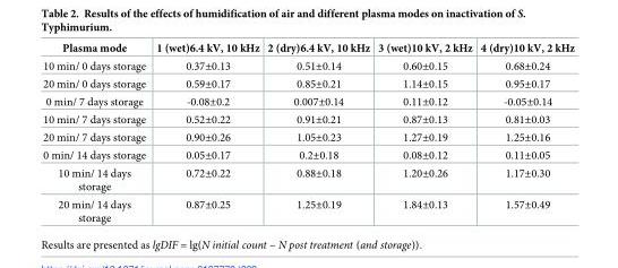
<table><thead><tr><td>Plasma mode</td><td>1 (wet)6.4 kV, 10 kHz</td><td>2 (dry)6.4 kV, 10 kHz</td><td>3 (wet)10 kV, 2 kHz</td><td>4 (dry)10 kV, 2 kHz</td></tr></thead><tbody><tr><td>10 min/ 0 days storage</td><td>0.37±0.13</td><td>0.51±0.14</td><td>0.60±0.15</td><td>0.68±0.24</td></tr><tr><td>20 min/ 0 days storage</td><td>0.59±0.17</td><td>0.85±0.21</td><td>1.14±0.15</td><td>0.95±0.17</td></tr><tr><td>0 min/ 7 days storage</td><td>-0.08±0.2</td><td>0.007±0.14</td><td>0.11±0.12</td><td>-0.05±0.14</td></tr><tr><td>10 min/ 7 days storage</td><td>0.52±0.22</td><td>0.91±0.21</td><td>0.87±0.13</td><td>0.81±0.03</td></tr><tr><td>20 min/ 7 days storage</td><td>0.90±0.26</td><td>1.05±0.23</td><td>1.27±0.19</td><td>1.25±0.16</td></tr><tr><td>0 min/ 14 days storage</td><td>0.05±0.17</td><td>0.2±0.18</td><td>0.08±0.12</td><td>0.11±0.05</td></tr><tr><td>10 min/ 14 days storage</td><td>0.72±0.22</td><td>0.88±0.18</td><td>1.20±0.26</td><td>1.17±0.30</td></tr><tr><td>20 min/ 14 days storage</td><td>0.87±0.25</td><td>1.25±0.19</td><td>1.84±0.13</td><td>1.57±0.49</td></tr></tbody></table>